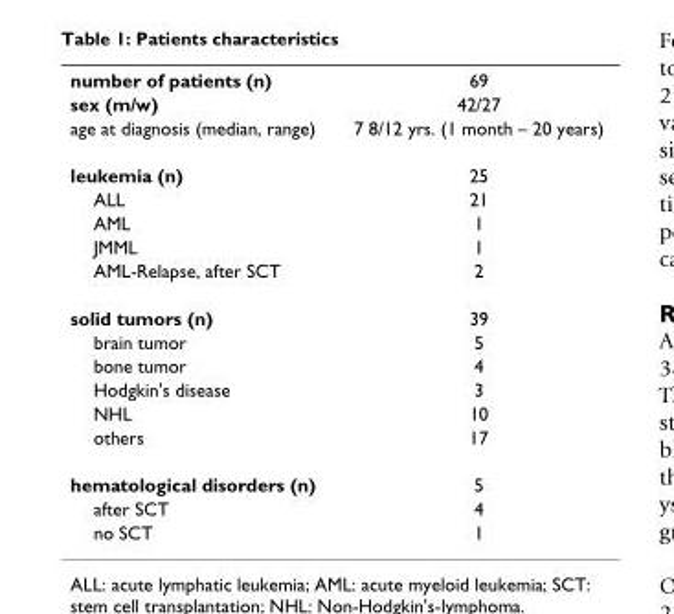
<table><tbody><tr><td>number of patients (n)</td><td>69</td></tr><tr><td>sex (m/w)</td><td>42/27</td></tr><tr><td>age at diagnosis (median, range)</td><td>7 8/12 yrs. (1 month – 20 years)</td></tr><tr><td>leukemia (n)</td><td>25</td></tr><tr><td>ALL</td><td>21</td></tr><tr><td>AML</td><td>1</td></tr><tr><td>JMML</td><td>1</td></tr><tr><td>AML-Relapse, after SCT</td><td>2</td></tr><tr><td>solid tumors (n)</td><td>39</td></tr><tr><td>brain tumor</td><td>5</td></tr><tr><td>bone tumor</td><td>4</td></tr><tr><td>Hodgkin&#x27;s disease</td><td>3</td></tr><tr><td>NHL</td><td>10</td></tr><tr><td>others</td><td>17</td></tr><tr><td>hematological disorders (n)</td><td>5</td></tr><tr><td>after SCT</td><td>4</td></tr><tr><td>no SCT</td><td>1</td></tr></tbody></table>